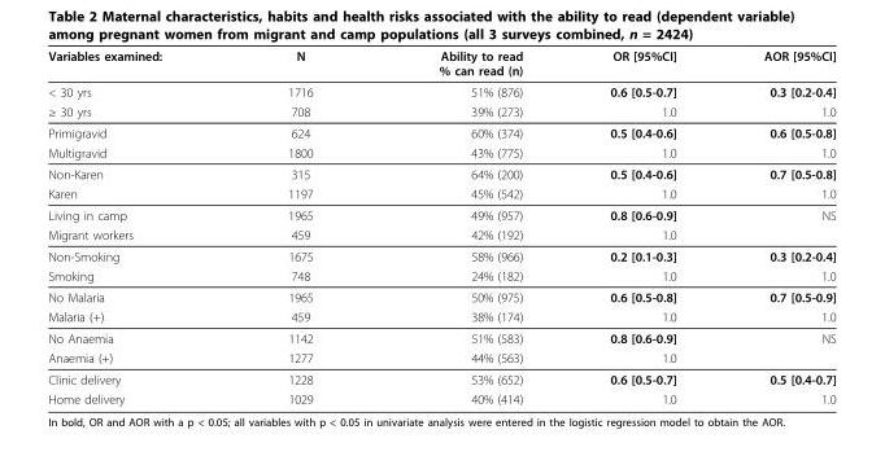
<table><thead><tr><td>Variables examined:</td><td>N</td><td>Ability to read % can read (n)</td><td>OR [95%CI]</td><td>AOR [95%CI]</td></tr></thead><tbody><tr><td>&lt; 30 yrs</td><td>1716</td><td>51% (876)</td><td>0.6 [0.5-0.7]</td><td>0.3 [0.2-0.4]</td></tr><tr><td>≥ 30 yrs</td><td>708</td><td>39% (273)</td><td>1.0</td><td>1.0</td></tr><tr><td>Primigravid</td><td>624</td><td>60% (374)</td><td>0.5 [0.4-0.6]</td><td>0.6 [0.5-0.8]</td></tr><tr><td>Multigravid</td><td>1800</td><td>43% (775)</td><td>1.0</td><td>1.0</td></tr><tr><td>Non-Karen</td><td>315</td><td>64% (200)</td><td>0.5 [0.4-0.6]</td><td>0.7 [0.5-0.8]</td></tr><tr><td>Karen</td><td>1197</td><td>45% (542)</td><td>1.0</td><td>1.0</td></tr><tr><td>Living in camp</td><td>1965</td><td>49% (957)</td><td>0.8 [0.6-0.9]</td><td>NS</td></tr><tr><td>Migrant workers</td><td>459</td><td>42% (192)</td><td>1.0</td><td></td></tr><tr><td>Non-Smoking</td><td>1675</td><td>58% (966)</td><td>0.2 [0.1-0.3]</td><td>0.3 [0.2-0.4]</td></tr><tr><td>Smoking</td><td>748</td><td>24% (182)</td><td>1.0</td><td>1.0</td></tr><tr><td>No Malaria</td><td>1965</td><td>50% (975)</td><td>0.6 [0.5-0.8]</td><td>0.7 [0.5-0.9]</td></tr><tr><td>Malaria (+)</td><td>459</td><td>38% (174)</td><td>1.0</td><td>1.0</td></tr><tr><td>No Anaemia</td><td>1142</td><td>51% (583)</td><td>0.8 [0.6-0.9]</td><td>NS</td></tr><tr><td>Anaemia (+)</td><td>1277</td><td>44% (563)</td><td>1.0</td><td></td></tr><tr><td>Clinic delivery</td><td>1228</td><td>53% (652)</td><td>0.6 [0.5-0.7]</td><td>0.5 [0.4-0.7]</td></tr><tr><td>Home delivery</td><td>1029</td><td>40% (414)</td><td>1.0</td><td>1.0</td></tr></tbody></table>